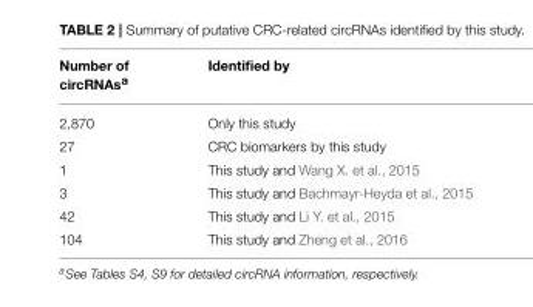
<table><thead><tr><td>Number of circRNAs<sup>a</sup></td><td>Identified by</td></tr></thead><tbody><tr><td>2,870</td><td>Only this study</td></tr><tr><td>27</td><td>CRC biomarkers by this study</td></tr><tr><td>1</td><td>This study and Wang X. et al., 2015</td></tr><tr><td>3</td><td>This study and Bachmayr-Heyda et al., 2015</td></tr><tr><td>42</td><td>This study and Li Y. et al., 2015</td></tr><tr><td>104</td><td>This study and Zheng et al., 2016</td></tr></tbody></table>